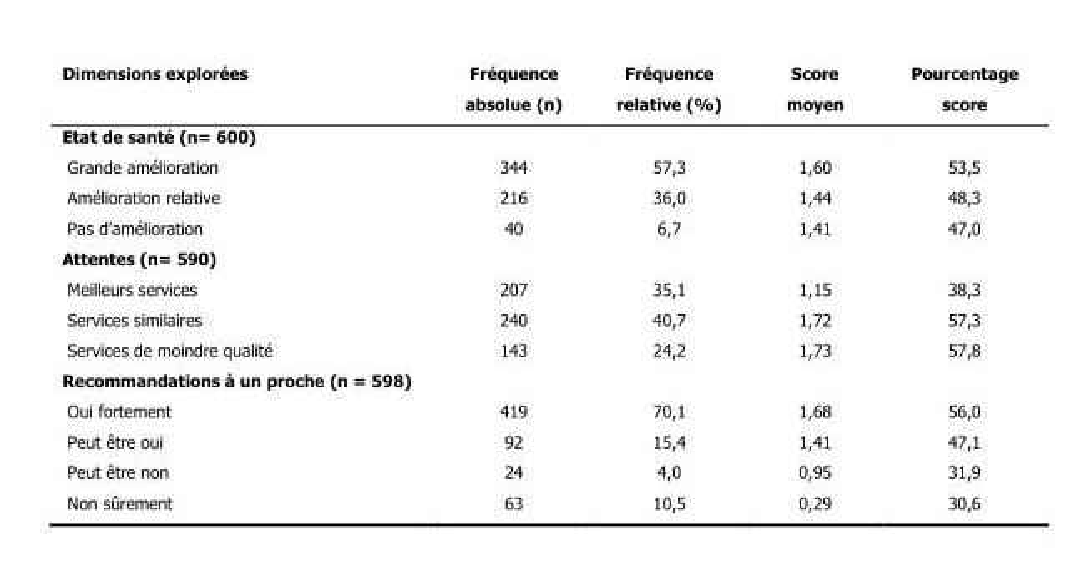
<table><thead><tr><td>Dimensions explorées</td><td>Fréquence absolue (n)</td><td>Fréquence relative (%)</td><td>Score moyen</td><td>Pourcentage score</td></tr></thead><tbody><tr><td colspan="5">Etat de santé (n= 600)</td></tr><tr><td>Grande amélioration</td><td>344</td><td>57,3</td><td>1,60</td><td>53,5</td></tr><tr><td>Amélioration relative</td><td>216</td><td>36,0</td><td>1,44</td><td>48,3</td></tr><tr><td>Pas d’amélioration</td><td>40</td><td>6,7</td><td>1,41</td><td>47,0</td></tr><tr><td colspan="5">Attentes (n= 590)</td></tr><tr><td>Meilleurs services</td><td>207</td><td>35,1</td><td>1,15</td><td>38,3</td></tr><tr><td>Services similaires</td><td>240</td><td>40,7</td><td>1,72</td><td>57,3</td></tr><tr><td>Services de moindre qualité</td><td>143</td><td>24,2</td><td>1,73</td><td>57,8</td></tr><tr><td colspan="5">Recommandations à un proche (n = 598)</td></tr><tr><td>Oui fortement</td><td>419</td><td>70,1</td><td>1,68</td><td>56,0</td></tr><tr><td>Peut être oui</td><td>92</td><td>15,4</td><td>1,41</td><td>47,1</td></tr><tr><td>Peut être non</td><td>24</td><td>4,0</td><td>0,95</td><td>31,9</td></tr><tr><td>Non sûrement</td><td>63</td><td>10,5</td><td>0,29</td><td>30,6</td></tr></tbody></table>